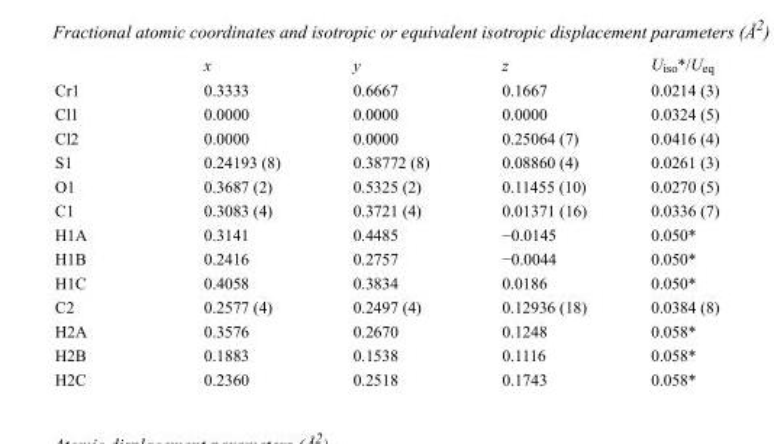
<table><thead><tr><td></td><td>x</td><td>y</td><td>z</td><td>U<sub>iso</sub>*/U<sub>eq</sub></td></tr></thead><tbody><tr><td>Cr1</td><td>0.3333</td><td>0.6667</td><td>0.1667</td><td>0.0214 (3)</td></tr><tr><td>Cl1</td><td>0.0000</td><td>0.0000</td><td>0.0000</td><td>0.0324 (5)</td></tr><tr><td>Cl2</td><td>0.0000</td><td>0.0000</td><td>0.25064 (7)</td><td>0.0416 (4)</td></tr><tr><td>S1</td><td>0.24193 (8)</td><td>0.38772 (8)</td><td>0.08860 (4)</td><td>0.0261 (3)</td></tr><tr><td>O1</td><td>0.3687 (2)</td><td>0.5325 (2)</td><td>0.11455 (10)</td><td>0.0270 (5)</td></tr><tr><td>C1</td><td>0.3083 (4)</td><td>0.3721 (4)</td><td>0.01371 (16)</td><td>0.0336 (7)</td></tr><tr><td>H1A</td><td>0.3141</td><td>0.4485</td><td>−0.0145</td><td>0.050*</td></tr><tr><td>H1B</td><td>0.2416</td><td>0.2757</td><td>−0.0044</td><td>0.050*</td></tr><tr><td>H1C</td><td>0.4058</td><td>0.3834</td><td>0.0186</td><td>0.050*</td></tr><tr><td>C2</td><td>0.2577 (4)</td><td>0.2497 (4)</td><td>0.12936 (18)</td><td>0.0384 (8)</td></tr><tr><td>H2A</td><td>0.3576</td><td>0.2670</td><td>0.1248</td><td>0.058*</td></tr><tr><td>H2B</td><td>0.1883</td><td>0.1538</td><td>0.1116</td><td>0.058*</td></tr><tr><td>H2C</td><td>0.2360</td><td>0.2518</td><td>0.1743</td><td>0.058*</td></tr></tbody></table>